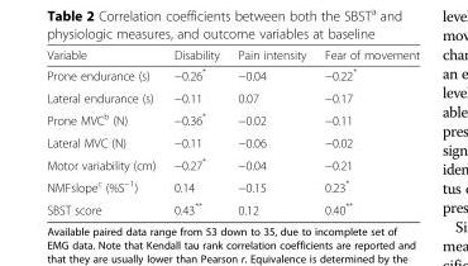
<table><thead><tr><td>Variable</td><td>Disability</td><td>Pain intensity</td><td>Fear of movement</td></tr></thead><tbody><tr><td>Prone endurance (s)</td><td>−0.26*</td><td>−0.04</td><td>−0.22*</td></tr><tr><td>Lateral endurance (s)</td><td>−0.11</td><td>0.07</td><td>−0.17</td></tr><tr><td>Prone MVC<sup>b</sup> (N)</td><td>−0.36*</td><td>−0.02</td><td>−0.11</td></tr><tr><td>Lateral MVC (N)</td><td>−0.11</td><td>−0.06</td><td>−0.02</td></tr><tr><td>Motor variability (cm)</td><td>−0.27*</td><td>−0.04</td><td>−0.21</td></tr><tr><td>NMFslope<sup>c</sup> (%S<sup>−1</sup>)</td><td>0.14</td><td>−0.15</td><td>0.23*</td></tr><tr><td>SBST score</td><td>0.43**</td><td>0.12</td><td>0.40**</td></tr></tbody></table>